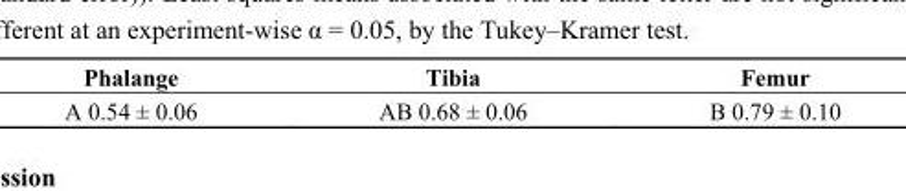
<table><thead><tr><td>Phalange</td><td>Tibia</td><td>Femur</td></tr></thead><tbody><tr><td>A 0.54 ± 0.06</td><td>AB 0.68 ± 0.06</td><td>B 0.79 ± 0.10</td></tr></tbody></table>